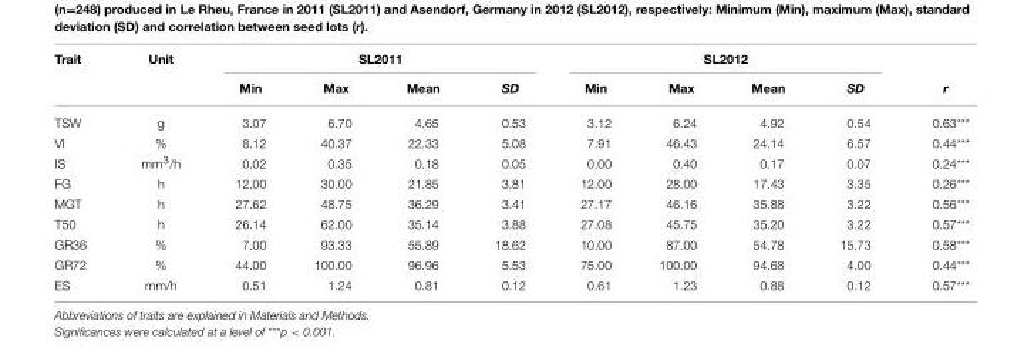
<table><thead><tr><td rowspan="2">Trait</td><td rowspan="2">Unit</td><td colspan="4">SL2011</td><td colspan="4">SL2012</td><td rowspan="2">r</td></tr><tr><td>Min</td><td>Max</td><td>Mean</td><td>SD</td><td>Min</td><td>Max</td><td>Mean</td><td>SD</td></tr></thead><tbody><tr><td>TSW</td><td>g</td><td>3.07</td><td>6.70</td><td>4.65</td><td>0.53</td><td>3.12</td><td>6.24</td><td>4.92</td><td>0.54</td><td>0.63***</td></tr><tr><td>VI</td><td>%</td><td>8.12</td><td>40.37</td><td>22.33</td><td>5.08</td><td>7.91</td><td>46.43</td><td>24.14</td><td>6.57</td><td>0.44***</td></tr><tr><td>IS</td><td>mm<sup>3</sup>/h</td><td>0.02</td><td>0.35</td><td>0.18</td><td>0.05</td><td>0.00</td><td>0.40</td><td>0.17</td><td>0.07</td><td>0.24***</td></tr><tr><td>FG</td><td>h</td><td>12.00</td><td>30.00</td><td>21.85</td><td>3.81</td><td>12.00</td><td>28.00</td><td>17.43</td><td>3.35</td><td>0.26***</td></tr><tr><td>MGT</td><td>h</td><td>27.62</td><td>48.75</td><td>36.29</td><td>3.41</td><td>27.17</td><td>46.16</td><td>35.88</td><td>3.22</td><td>0.56***</td></tr><tr><td>T50</td><td>h</td><td>26.14</td><td>62.00</td><td>35.14</td><td>3.88</td><td>27.08</td><td>45.75</td><td>35.20</td><td>3.22</td><td>0.57***</td></tr><tr><td>GR36</td><td>%</td><td>7.00</td><td>93.33</td><td>55.89</td><td>18.62</td><td>10.00</td><td>87.00</td><td>54.78</td><td>15.73</td><td>0.58***</td></tr><tr><td>GR72</td><td>%</td><td>44.00</td><td>100.00</td><td>96.96</td><td>5.53</td><td>75.00</td><td>100.00</td><td>94.68</td><td>4.00</td><td>0.44***</td></tr><tr><td>ES</td><td>mm/h</td><td>0.51</td><td>1.24</td><td>0.81</td><td>0.12</td><td>0.61</td><td>1.23</td><td>0.88</td><td>0.12</td><td>0.57***</td></tr></tbody></table>